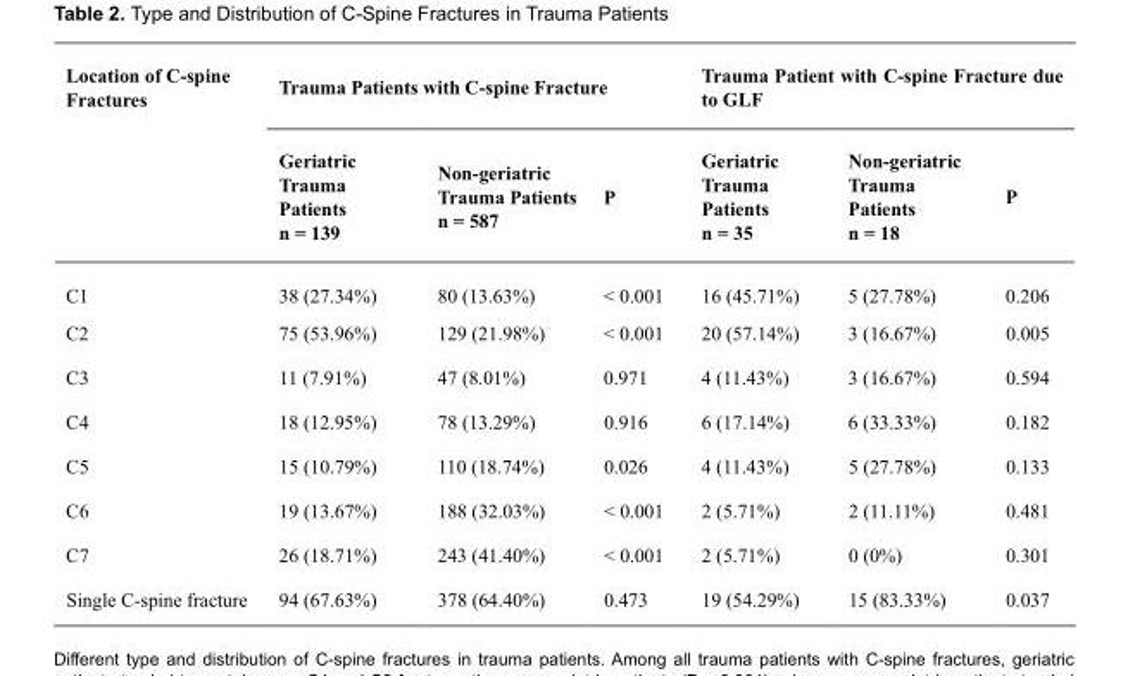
<table><thead><tr><td rowspan="3">Location of C-spine Fractures</td><td colspan="3">Trauma Patients with C-spine Fracture</td><td colspan="3">Trauma Patient with C-spine Fracture due to GLF</td></tr><tr><td rowspan="2">Geriatric Trauma Patients n = 139</td><td rowspan="2">Non-geriatric Trauma Patients n = 587</td><td rowspan="2">P</td><td rowspan="2">Geriatric Trauma Patients n = 35</td><td rowspan="2">Non-geriatric Trauma Patients n = 18</td><td rowspan="2">P</td></tr><tr></tr></thead><tbody><tr><td>C1</td><td>38 (27.34%)</td><td>80 (13.63%)</td><td>&lt; 0.001</td><td>16 (45.71%)</td><td>5 (27.78%)</td><td>0.206</td></tr><tr><td>C2</td><td>75 (53.96%)</td><td>129 (21.98%)</td><td>&lt; 0.001</td><td>20 (57.14%)</td><td>3 (16.67%)</td><td>0.005</td></tr><tr><td>C3</td><td>11 (7.91%)</td><td>47 (8.01%)</td><td>0.971</td><td>4 (11.43%)</td><td>3 (16.67%)</td><td>0.594</td></tr><tr><td>C4</td><td>18 (12.95%)</td><td>78 (13.29%)</td><td>0.916</td><td>6 (17.14%)</td><td>6 (33.33%)</td><td>0.182</td></tr><tr><td>C5</td><td>15 (10.79%)</td><td>110 (18.74%)</td><td>0.026</td><td>4 (11.43%)</td><td>5 (27.78%)</td><td>0.133</td></tr><tr><td>C6</td><td>19 (13.67%)</td><td>188 (32.03%)</td><td>&lt; 0.001</td><td>2 (5.71%)</td><td>2 (11.11%)</td><td>0.481</td></tr><tr><td>C7</td><td>26 (18.71%)</td><td>243 (41.40%)</td><td>&lt; 0.001</td><td>2 (5.71%)</td><td>0 (0%)</td><td>0.301</td></tr><tr><td>Single C-spine fracture</td><td>94 (67.63%)</td><td>378 (64.40%)</td><td>0.473</td><td>19 (54.29%)</td><td>15 (83.33%)</td><td>0.037</td></tr></tbody></table>